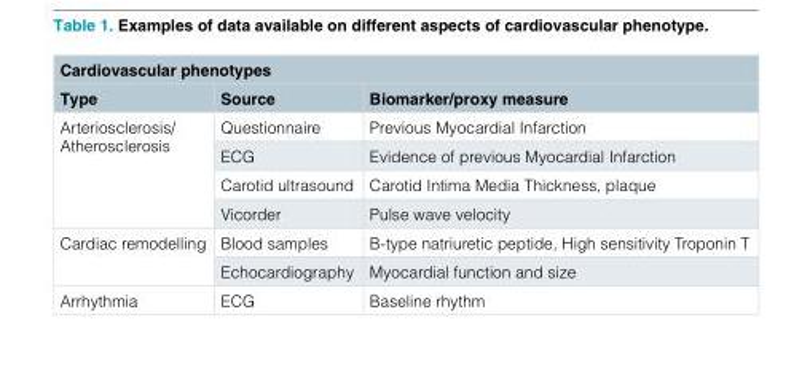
<table><thead><tr><td colspan="3">Cardiovascular phenotypes</td></tr><tr><td>Type</td><td>Source</td><td>Biomarker/proxy measure</td></tr></thead><tbody><tr><td rowspan="4">Arteriosclerosis/ Atherosclerosis</td><td>Questionnaire</td><td>Previous Myocardial Infarction</td></tr><tr><td>ECG</td><td>Evidence of previous Myocardial Infarction</td></tr><tr><td>Carotid ultrasound</td><td>Carotid Intima Media Thickness, plaque</td></tr><tr><td>Vicorder</td><td>Pulse wave velocity</td></tr><tr><td rowspan="2">Cardiac remodelling</td><td>Blood samples</td><td>B-type natriuretic peptide, High sensitivity Troponin T</td></tr><tr><td>Echocardiography</td><td>Myocardial function and size</td></tr><tr><td>Arrhythmia</td><td>ECG</td><td>Baseline rhythm</td></tr></tbody></table>